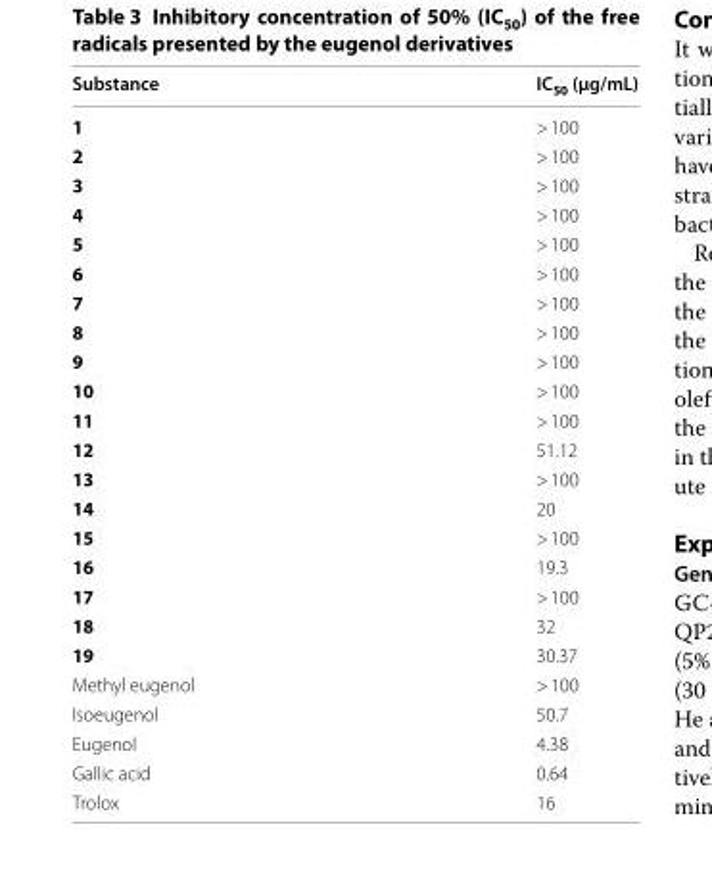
<table><thead><tr><td>Substance</td><td>IC<sub>50</sub> (μg/mL)</td></tr></thead><tbody><tr><td>1</td><td>&gt; 100</td></tr><tr><td>2</td><td>&gt; 100</td></tr><tr><td>3</td><td>&gt; 100</td></tr><tr><td>4</td><td>&gt; 100</td></tr><tr><td>5</td><td>&gt; 100</td></tr><tr><td>6</td><td>&gt; 100</td></tr><tr><td>7</td><td>&gt; 100</td></tr><tr><td>8</td><td>&gt; 100</td></tr><tr><td>9</td><td>&gt; 100</td></tr><tr><td>10</td><td>&gt; 100</td></tr><tr><td>11</td><td>&gt; 100</td></tr><tr><td>12</td><td>51.12</td></tr><tr><td>13</td><td>&gt; 100</td></tr><tr><td>14</td><td>20</td></tr><tr><td>15</td><td>&gt; 100</td></tr><tr><td>16</td><td>19.3</td></tr><tr><td>17</td><td>&gt; 100</td></tr><tr><td>18</td><td>32</td></tr><tr><td>19</td><td>30.37</td></tr><tr><td>Methyl eugenol</td><td>&gt; 100</td></tr><tr><td>Isoeugenol</td><td>50.7</td></tr><tr><td>Eugenol</td><td>4.38</td></tr><tr><td>Gallic acid</td><td>0.64</td></tr><tr><td>Trolox</td><td>16</td></tr></tbody></table>